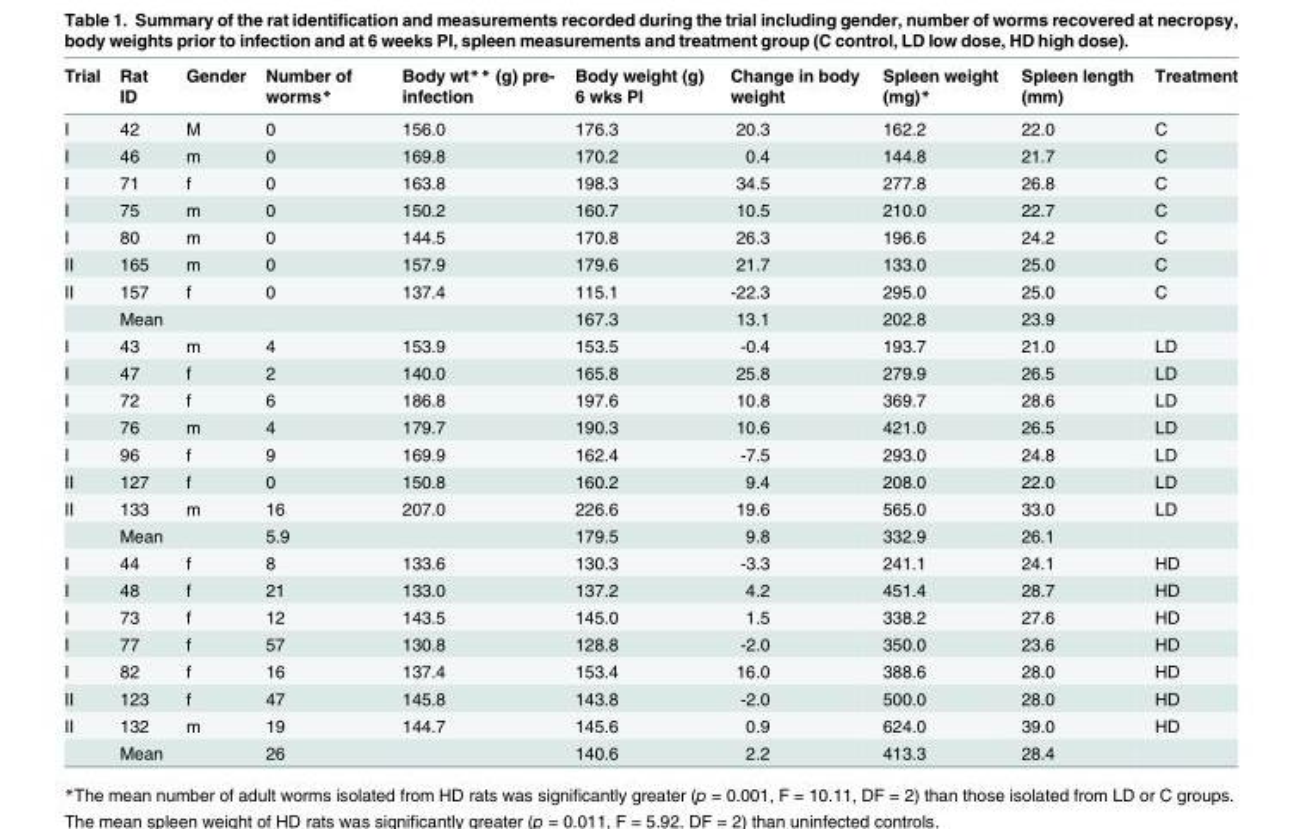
<table><thead><tr><td>Trial</td><td>Rat ID</td><td>Gender</td><td>Number of worms*</td><td>Body wt** (g) pre- infection</td><td>Body weight (g) 6 wks PI</td><td>Change in body weight</td><td>Spleen weight (mg)*</td><td>Spleen length (mm)</td><td>Treatment</td></tr></thead><tbody><tr><td>I</td><td>42</td><td>M</td><td>0</td><td>156.0</td><td>176.3</td><td>20.3</td><td>162.2</td><td>22.0</td><td>C</td></tr><tr><td>I</td><td>46</td><td>m</td><td>0</td><td>169.8</td><td>170.2</td><td>0.4</td><td>144.8</td><td>21.7</td><td>C</td></tr><tr><td>I</td><td>71</td><td>f</td><td>0</td><td>163.8</td><td>198.3</td><td>34.5</td><td>277.8</td><td>26.8</td><td>C</td></tr><tr><td>I</td><td>75</td><td>m</td><td>0</td><td>150.2</td><td>160.7</td><td>10.5</td><td>210.0</td><td>22.7</td><td>C</td></tr><tr><td>I</td><td>80</td><td>m</td><td>0</td><td>144.5</td><td>170.8</td><td>26.3</td><td>196.6</td><td>24.2</td><td>C</td></tr><tr><td>II</td><td>165</td><td>m</td><td>0</td><td>157.9</td><td>179.6</td><td>21.7</td><td>133.0</td><td>25.0</td><td>C</td></tr><tr><td rowspan="2">II</td><td>157</td><td>f</td><td>0</td><td>137.4</td><td>115.1</td><td>-22.3</td><td>295.0</td><td>25.0</td><td>C</td></tr><tr><td>Mean</td><td></td><td></td><td></td><td>167.3</td><td>13.1</td><td>202.8</td><td>23.9</td><td></td></tr><tr><td>I</td><td>43</td><td>m</td><td>4</td><td>153.9</td><td>153.5</td><td>-0.4</td><td>193.7</td><td>21.0</td><td>LD</td></tr><tr><td>I</td><td>47</td><td>f</td><td>2</td><td>140.0</td><td>165.8</td><td>25.8</td><td>279.9</td><td>26.5</td><td>LD</td></tr><tr><td>I</td><td>72</td><td>f</td><td>6</td><td>186.8</td><td>197.6</td><td>10.8</td><td>369.7</td><td>28.6</td><td>LD</td></tr><tr><td>I</td><td>76</td><td>m</td><td>4</td><td>179.7</td><td>190.3</td><td>10.6</td><td>421.0</td><td>26.5</td><td>LD</td></tr><tr><td>I</td><td>96</td><td>f</td><td>9</td><td>169.9</td><td>162.4</td><td>-7.5</td><td>293.0</td><td>24.8</td><td>LD</td></tr><tr><td>II</td><td>127</td><td>f</td><td>0</td><td>150.8</td><td>160.2</td><td>9.4</td><td>208.0</td><td>22.0</td><td>LD</td></tr><tr><td rowspan="2">II</td><td>133</td><td>m</td><td>16</td><td>207.0</td><td>226.6</td><td>19.6</td><td>565.0</td><td>33.0</td><td>LD</td></tr><tr><td>Mean</td><td></td><td>5.9</td><td></td><td>179.5</td><td>9.8</td><td>332.9</td><td>26.1</td><td></td></tr><tr><td>I</td><td>44</td><td>f</td><td>8</td><td>133.6</td><td>130.3</td><td>-3.3</td><td>241.1</td><td>24.1</td><td>HD</td></tr><tr><td>I</td><td>48</td><td>f</td><td>21</td><td>133.0</td><td>137.2</td><td>4.2</td><td>451.4</td><td>28.7</td><td>HD</td></tr><tr><td>I</td><td>73</td><td>f</td><td>12</td><td>143.5</td><td>145.0</td><td>1.5</td><td>338.2</td><td>27.6</td><td>HD</td></tr><tr><td>I</td><td>77</td><td>f</td><td>57</td><td>130.8</td><td>128.8</td><td>-2.0</td><td>350.0</td><td>23.6</td><td>HD</td></tr><tr><td>I</td><td>82</td><td>f</td><td>16</td><td>137.4</td><td>153.4</td><td>16.0</td><td>388.6</td><td>28.0</td><td>HD</td></tr><tr><td>II</td><td>123</td><td>f</td><td>47</td><td>145.8</td><td>143.8</td><td>-2.0</td><td>500.0</td><td>28.0</td><td>HD</td></tr><tr><td rowspan="2">II</td><td>132</td><td>m</td><td>19</td><td>144.7</td><td>145.6</td><td>0.9</td><td>624.0</td><td>39.0</td><td>HD</td></tr><tr><td>Mean</td><td></td><td>26</td><td></td><td>140.6</td><td>2.2</td><td>413.3</td><td>28.4</td><td></td></tr></tbody></table>